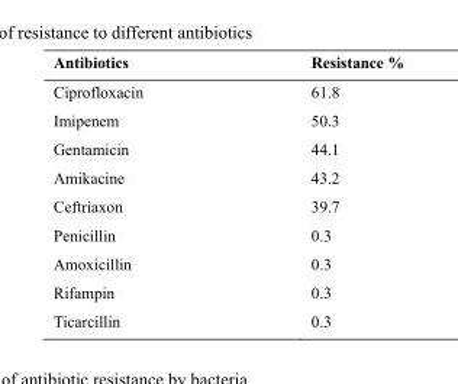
<table><thead><tr><td>Antibiotics</td><td>Resistance %</td></tr></thead><tbody><tr><td>Ciprofloxacin</td><td>61.8</td></tr><tr><td>Imipenem</td><td>50.3</td></tr><tr><td>Gentamicin</td><td>44.1</td></tr><tr><td>Amikacine</td><td>43.2</td></tr><tr><td>Ceftriaxon</td><td>39.7</td></tr><tr><td>Penicillin</td><td>0.3</td></tr><tr><td>Amoxicillin</td><td>0.3</td></tr><tr><td>Rifampin</td><td>0.3</td></tr><tr><td>Ticarcillin</td><td>0.3</td></tr></tbody></table>